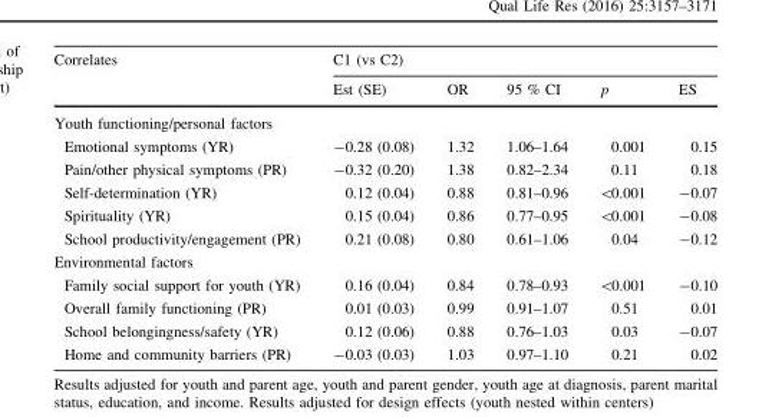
<table><thead><tr><td rowspan="2">Correlates</td><td colspan="5">C1 (vs C2)</td></tr><tr><td>Est (SE)</td><td>OR</td><td>95 % CI</td><td>p</td><td>ES</td></tr></thead><tbody><tr><td colspan="6">Youth functioning/personal factors</td></tr><tr><td>Emotional symptoms (YR)</td><td>-0.28 (0.08)</td><td>1.32</td><td>1.06–1.64</td><td>0.001</td><td>0.15</td></tr><tr><td>Pain/other physical symptoms (PR)</td><td>-0.32 (0.20)</td><td>1.38</td><td>0.82–2.34</td><td>0.11</td><td>0.18</td></tr><tr><td>Self-determination (YR)</td><td>0.12 (0.04)</td><td>0.88</td><td>0.81–0.96</td><td>&lt;0.001</td><td>-0.07</td></tr><tr><td>Spirituality (YR)</td><td>0.15 (0.04)</td><td>0.86</td><td>0.77–0.95</td><td>&lt;0.001</td><td>-0.08</td></tr><tr><td>School productivity/engagement (PR)</td><td>0.21 (0.08)</td><td>0.80</td><td>0.61–1.06</td><td>0.04</td><td>-0.12</td></tr><tr><td colspan="6">Environmental factors</td></tr><tr><td>Family social support for youth (YR)</td><td>0.16 (0.04)</td><td>0.84</td><td>0.78–0.93</td><td>&lt;0.001</td><td>-0.10</td></tr><tr><td>Overall family functioning (PR)</td><td>0.01 (0.03)</td><td>0.99</td><td>0.91–1.07</td><td>0.51</td><td>0.01</td></tr><tr><td>School belongingness/safety (YR)</td><td>0.12 (0.06)</td><td>0.88</td><td>0.76–1.03</td><td>0.03</td><td>-0.07</td></tr><tr><td>Home and community barriers (PR)</td><td>-0.03 (0.03)</td><td>1.03</td><td>0.97–1.10</td><td>0.21</td><td>0.02</td></tr></tbody></table>